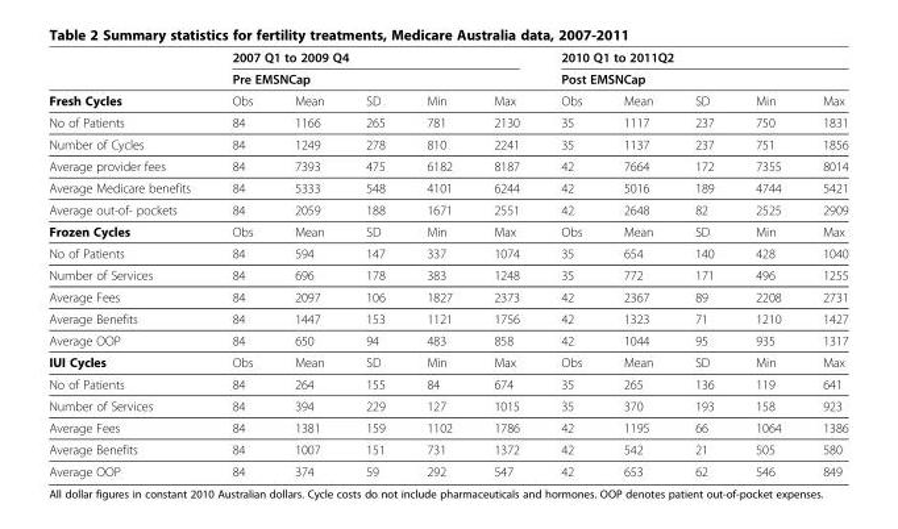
<table><thead><tr><td rowspan="3">Fresh Cycles</td><td rowspan="2" colspan="5">2007 Q1 to 2009 Q4 Pre EMSNCap</td><td rowspan="2" colspan="5">2010 Q1 to 2011Q2 Post EMSNCap</td></tr><tr></tr><tr><td>Obs</td><td>Mean</td><td>SD</td><td>Min</td><td>Max</td><td>Obs</td><td>Mean</td><td>SD</td><td>Min</td><td>Max</td></tr></thead><tbody><tr><td>No of Patients</td><td>84</td><td>1166</td><td>265</td><td>781</td><td>2130</td><td>35</td><td>1117</td><td>237</td><td>750</td><td>1831</td></tr><tr><td>Number of Cycles</td><td>84</td><td>1249</td><td>278</td><td>810</td><td>2241</td><td>35</td><td>1137</td><td>237</td><td>751</td><td>1856</td></tr><tr><td>Average provider fees</td><td>84</td><td>7393</td><td>475</td><td>6182</td><td>8187</td><td>42</td><td>7664</td><td>172</td><td>7355</td><td>8014</td></tr><tr><td>Average Medicare benefits</td><td>84</td><td>5333</td><td>548</td><td>4101</td><td>6244</td><td>42</td><td>5016</td><td>189</td><td>4744</td><td>5421</td></tr><tr><td>Average out-of- pockets</td><td>84</td><td>2059</td><td>188</td><td>1671</td><td>2551</td><td>42</td><td>2648</td><td>82</td><td>2525</td><td>2909</td></tr><tr><td>Frozen Cycles</td><td>Obs</td><td>Mean</td><td>SD</td><td>Min</td><td>Max</td><td>Obs</td><td>Mean</td><td>SD</td><td>Min</td><td>Max</td></tr><tr><td>No of Patients</td><td>84</td><td>594</td><td>147</td><td>337</td><td>1074</td><td>35</td><td>654</td><td>140</td><td>428</td><td>1040</td></tr><tr><td>Number of Services</td><td>84</td><td>696</td><td>178</td><td>383</td><td>1248</td><td>35</td><td>772</td><td>171</td><td>496</td><td>1255</td></tr><tr><td>Average Fees</td><td>84</td><td>2097</td><td>106</td><td>1827</td><td>2373</td><td>42</td><td>2367</td><td>89</td><td>2208</td><td>2731</td></tr><tr><td>Average Benefits</td><td>84</td><td>1447</td><td>153</td><td>1121</td><td>1756</td><td>42</td><td>1323</td><td>71</td><td>1210</td><td>1427</td></tr><tr><td>Average OOP</td><td>84</td><td>650</td><td>94</td><td>483</td><td>858</td><td>42</td><td>1044</td><td>95</td><td>935</td><td>1317</td></tr><tr><td>IUI Cycles</td><td>Obs</td><td>Mean</td><td>SD</td><td>Min</td><td>Max</td><td>Obs</td><td>Mean</td><td>SD</td><td>Min</td><td>Max</td></tr><tr><td>No of Patients</td><td>84</td><td>264</td><td>155</td><td>84</td><td>674</td><td>35</td><td>265</td><td>136</td><td>119</td><td>641</td></tr><tr><td>Number of Services</td><td>84</td><td>394</td><td>229</td><td>127</td><td>1015</td><td>35</td><td>370</td><td>193</td><td>158</td><td>923</td></tr><tr><td>Average Fees</td><td>84</td><td>1381</td><td>159</td><td>1102</td><td>1786</td><td>42</td><td>1195</td><td>66</td><td>1064</td><td>1386</td></tr><tr><td>Average Benefits</td><td>84</td><td>1007</td><td>151</td><td>731</td><td>1372</td><td>42</td><td>542</td><td>21</td><td>505</td><td>580</td></tr><tr><td>Average OOP</td><td>84</td><td>374</td><td>59</td><td>292</td><td>547</td><td>42</td><td>653</td><td>62</td><td>546</td><td>849</td></tr></tbody></table>